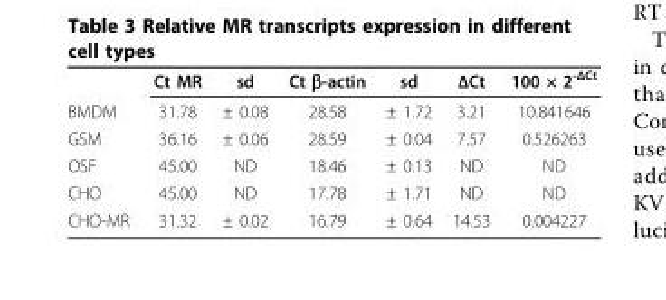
<table><thead><tr><td></td><td>Ct MR</td><td>sd</td><td>Ct β-actin</td><td>sd</td><td>ΔCt</td><td>100 × 2<sup>-ΔCt</sup></td></tr></thead><tbody><tr><td>BMDM</td><td>31.78</td><td>± 0.08</td><td>28.58</td><td>± 1.72</td><td>3.21</td><td>10.841646</td></tr><tr><td>GSM</td><td>36.16</td><td>± 0.06</td><td>28.59</td><td>± 0.04</td><td>7.57</td><td>0.526263</td></tr><tr><td>OSF</td><td>45.00</td><td>ND</td><td>18.46</td><td>± 0.13</td><td>ND</td><td>ND</td></tr><tr><td>CHO</td><td>45.00</td><td>ND</td><td>17.78</td><td>± 1.71</td><td>ND</td><td>ND</td></tr><tr><td>CHO-MR</td><td>31.32</td><td>± 0.02</td><td>16.79</td><td>± 0.64</td><td>14.53</td><td>0.004227</td></tr></tbody></table>